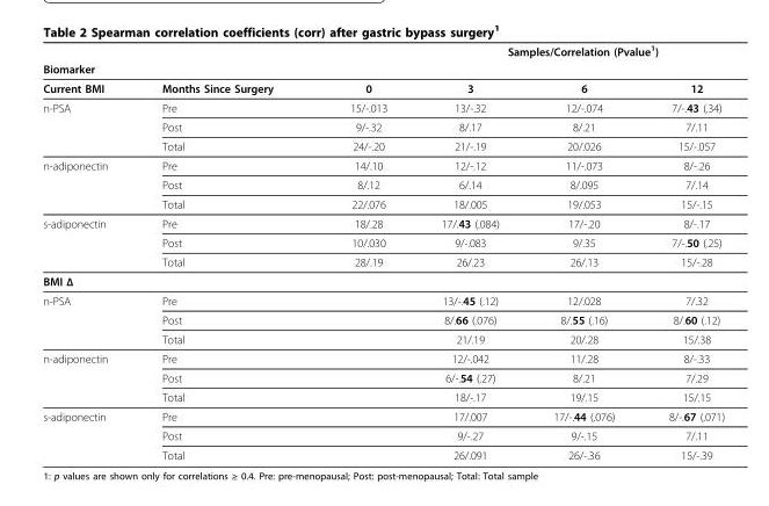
<table><thead><tr><td></td><td></td><td></td><td colspan="3">Samples/Correlation (Pvalue<sup>1</sup>)</td></tr><tr><td colspan="6">Biomarker</td></tr><tr><td>Current BMI</td><td>Months Since Surgery</td><td>0</td><td>3</td><td>6</td><td>12</td></tr></thead><tbody><tr><td rowspan="3">n-PSA</td><td>Pre</td><td>15/-.013</td><td>13/-.32</td><td>12/-.074</td><td>7/-.43 (.34)</td></tr><tr><td>Post</td><td>9/-.32</td><td>8/.17</td><td>8/.21</td><td>7/.11</td></tr><tr><td>Total</td><td>24/-.20</td><td>21/-.19</td><td>20/.026</td><td>15/-.057</td></tr><tr><td rowspan="3">n-adiponectin</td><td>Pre</td><td>14/.10</td><td>12/-.12</td><td>11/-.073</td><td>8/-.26</td></tr><tr><td>Post</td><td>8/.12</td><td>6/.14</td><td>8/.095</td><td>7/.14</td></tr><tr><td>Total</td><td>22/.076</td><td>18/.005</td><td>19/.053</td><td>15/-.15</td></tr><tr><td rowspan="3">s-adiponectin</td><td>Pre</td><td>18/.28</td><td>17/.43 (.084)</td><td>17/-.20</td><td>8/-.17</td></tr><tr><td>Post</td><td>10/.030</td><td>9/-.083</td><td>9/.35</td><td>7/-.50 (.25)</td></tr><tr><td>Total</td><td>28/.19</td><td>26/.23</td><td>26/.13</td><td>15/-.28</td></tr><tr><td colspan="6">BMI Δ</td></tr><tr><td rowspan="3">n-PSA</td><td>Pre</td><td></td><td>13/-.45 (.12)</td><td>12/.028</td><td>7/.32</td></tr><tr><td>Post</td><td></td><td>8/.66 (.076)</td><td>8/.55 (.16)</td><td>8/.60 (.12)</td></tr><tr><td>Total</td><td></td><td>21/.19</td><td>20/.28</td><td>15/.38</td></tr><tr><td rowspan="3">n-adiponectin</td><td>Pre</td><td></td><td>12/-.042</td><td>11/.28</td><td>8/-.33</td></tr><tr><td>Post</td><td></td><td>6/-.54 (.27)</td><td>8/.21</td><td>7/.29</td></tr><tr><td>Total</td><td></td><td>18/-.17</td><td>19/.15</td><td>15/.15</td></tr><tr><td rowspan="3">s-adiponectin</td><td>Pre</td><td></td><td>17/.007</td><td>17/-.44 (.076)</td><td>8/-.67 (.071)</td></tr><tr><td>Post</td><td></td><td>9/-.27</td><td>9/-.15</td><td>7/.11</td></tr><tr><td>Total</td><td></td><td>26/.091</td><td>26/-.36</td><td>15/-.39</td></tr></tbody></table>